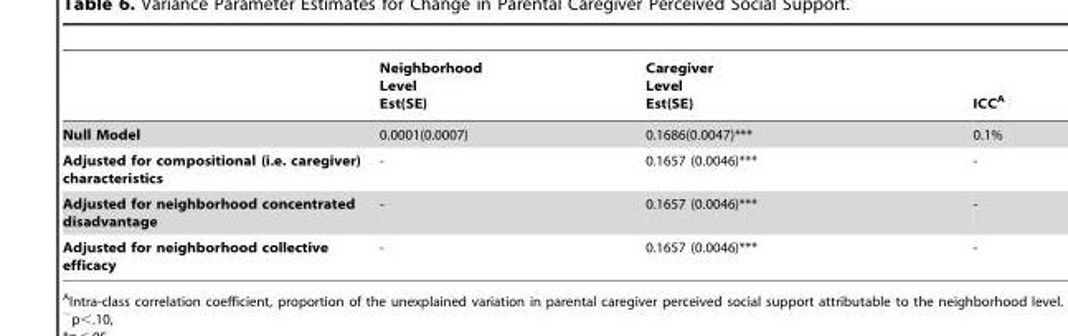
<table><thead><tr><td></td><td>Neighborhood Level Est(SE)</td><td>Caregiver Level Est(SE)</td><td>ICC<sup>A</sup></td></tr></thead><tbody><tr><td>Null Model</td><td>0.0001(0.0007)</td><td>0.1686(0.0047)***</td><td>0.1%</td></tr><tr><td>Adjusted for compositional (i.e. caregiver) characteristics</td><td>-</td><td>0.1657 (0.0046)***</td><td>-</td></tr><tr><td>Adjusted for neighborhood concentrated disadvantage</td><td>-</td><td>0.1657 (0.0046)***</td><td>-</td></tr><tr><td>Adjusted for neighborhood collective efficacy</td><td>-</td><td>0.1657 (0.0046)***</td><td>-</td></tr></tbody></table>